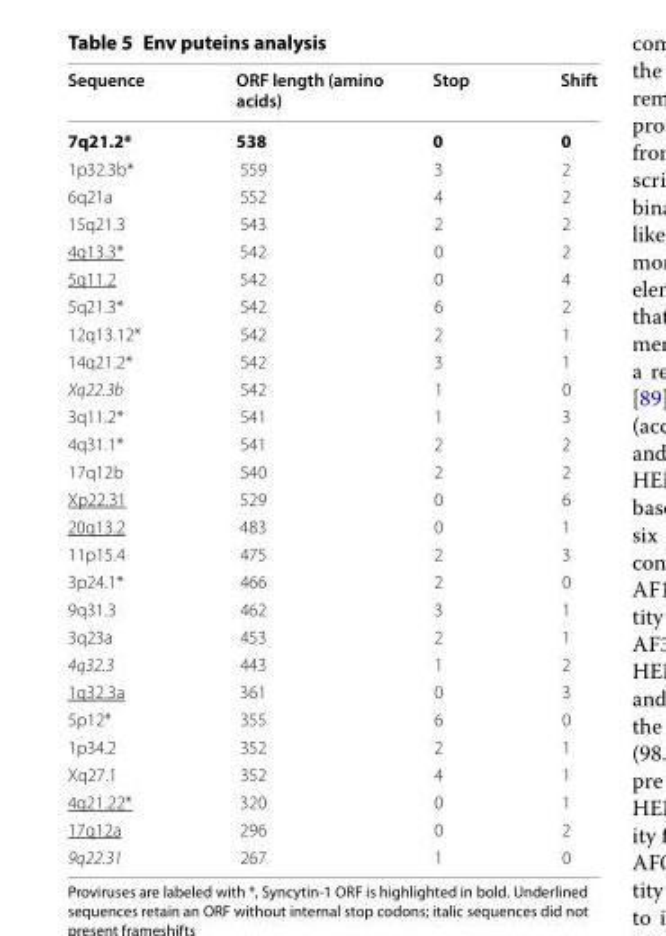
<table><thead><tr><td>Sequence</td><td>ORF length (amino acids)</td><td>Stop</td><td>Shift</td></tr></thead><tbody><tr><td>7q21.2*</td><td>538</td><td>0</td><td>0</td></tr><tr><td>1p32.3b*</td><td>559</td><td>3</td><td>2</td></tr><tr><td>6q21a</td><td>552</td><td>4</td><td>2</td></tr><tr><td>15q21.3</td><td>543</td><td>2</td><td>2</td></tr><tr><td>4q13.3*</td><td>542</td><td>0</td><td>2</td></tr><tr><td>5q11.2</td><td>542</td><td>0</td><td>4</td></tr><tr><td>5q21.3*</td><td>542</td><td>6</td><td>2</td></tr><tr><td>12q13.12*</td><td>542</td><td>2</td><td>1</td></tr><tr><td>14q21.2*</td><td>542</td><td>3</td><td>1</td></tr><tr><td>Xq22.3b</td><td>542</td><td>1</td><td>0</td></tr><tr><td>3q11.2*</td><td>541</td><td>1</td><td>3</td></tr><tr><td>4q31.1*</td><td>541</td><td>2</td><td>2</td></tr><tr><td>17q12b</td><td>540</td><td>2</td><td>2</td></tr><tr><td>Xp22.31</td><td>529</td><td>0</td><td>6</td></tr><tr><td>20q13.2</td><td>483</td><td>0</td><td>1</td></tr><tr><td>11p15.4</td><td>475</td><td>2</td><td>3</td></tr><tr><td>3p24.1*</td><td>466</td><td>2</td><td>0</td></tr><tr><td>9q31.3</td><td>462</td><td>3</td><td>1</td></tr><tr><td>3q23a</td><td>453</td><td>2</td><td>1</td></tr><tr><td>4q32.3</td><td>443</td><td>1</td><td>2</td></tr><tr><td>1q32.3a</td><td>361</td><td>0</td><td>3</td></tr><tr><td>5p12*</td><td>355</td><td>6</td><td>0</td></tr><tr><td>1p34.2</td><td>352</td><td>2</td><td>1</td></tr><tr><td>Xq27.1</td><td>352</td><td>4</td><td>1</td></tr><tr><td>4q21.22*</td><td>320</td><td>0</td><td>1</td></tr><tr><td>17q12a</td><td>296</td><td>0</td><td>2</td></tr><tr><td>9q22.31</td><td>267</td><td>1</td><td>0</td></tr></tbody></table>